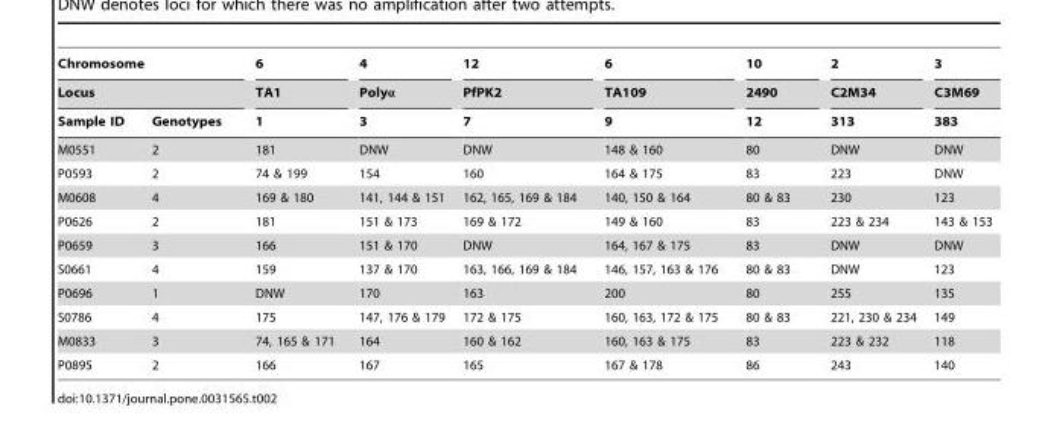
<table><thead><tr><td rowspan="2" colspan="2">Chromosome Locus</td><td rowspan="3">6 TA1 1</td><td rowspan="3">4 Polyα 3</td><td rowspan="3">12 PfPK2 7</td><td rowspan="3">6 TA109 9</td><td rowspan="3">10 2490 12</td><td rowspan="3">2 C2M34 313</td><td rowspan="3">3 C3M69 383</td></tr><tr></tr><tr><td>Sample ID</td><td>Genotypes</td></tr></thead><tbody><tr><td>M0551</td><td>2</td><td>181</td><td>DNW</td><td>DNW</td><td>148 &amp; 160</td><td>80</td><td>DNW</td><td>DNW</td></tr><tr><td>P0593</td><td>2</td><td>74 &amp; 199</td><td>154</td><td>160</td><td>164 &amp; 175</td><td>83</td><td>223</td><td>DNW</td></tr><tr><td>M0608</td><td>4</td><td>169 &amp; 180</td><td>141, 144 &amp; 151</td><td>162, 165, 169 &amp; 184</td><td>140, 150 &amp; 164</td><td>80 &amp; 83</td><td>230</td><td>123</td></tr><tr><td>P0626</td><td>2</td><td>181</td><td>151 &amp; 173</td><td>169 &amp; 172</td><td>149 &amp; 160</td><td>83</td><td>223 &amp; 234</td><td>143 &amp; 153</td></tr><tr><td>P0659</td><td>3</td><td>166</td><td>151 &amp; 170</td><td>DNW</td><td>164, 167 &amp; 175</td><td>83</td><td>DNW</td><td>DNW</td></tr><tr><td>S0661</td><td>4</td><td>159</td><td>137 &amp; 170</td><td>163, 166, 169 &amp; 184</td><td>146, 157, 163 &amp; 176</td><td>80 &amp; 83</td><td>DNW</td><td>123</td></tr><tr><td>P0696</td><td>1</td><td>DNW</td><td>170</td><td>163</td><td>200</td><td>80</td><td>255</td><td>135</td></tr><tr><td>S0786</td><td>4</td><td>175</td><td>147, 176 &amp; 179</td><td>172 &amp; 175</td><td>160, 163, 172 &amp; 175</td><td>80 &amp; 83</td><td>221, 230 &amp; 234</td><td>149</td></tr><tr><td>M0833</td><td>3</td><td>74, 165 &amp; 171</td><td>164</td><td>160 &amp; 162</td><td>160, 163 &amp; 175</td><td>83</td><td>223 &amp; 232</td><td>118</td></tr><tr><td>P0895</td><td>2</td><td>166</td><td>167</td><td>165</td><td>167 &amp; 178</td><td>86</td><td>243</td><td>140</td></tr></tbody></table>